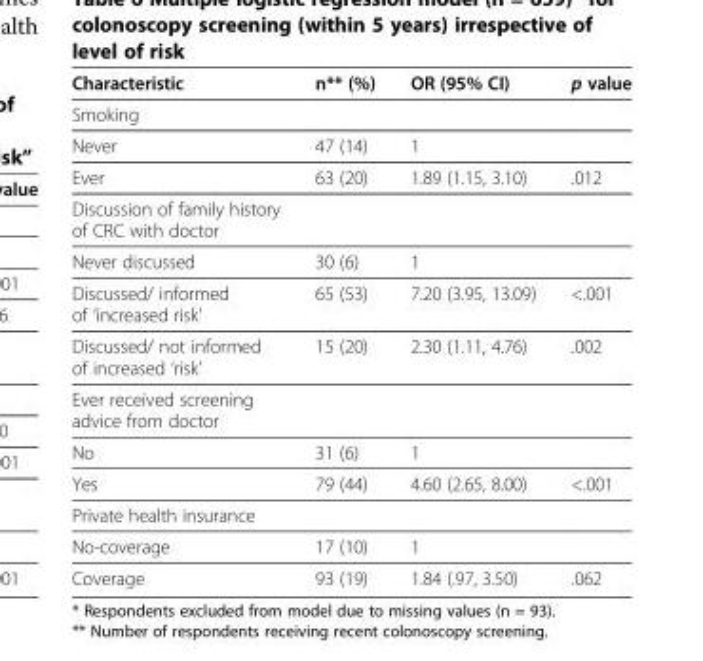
<table><thead><tr><td>Characteristic</td><td>n** (%)</td><td>OR (95% CI)</td><td>p value</td></tr></thead><tbody><tr><td colspan="4">Smoking</td></tr><tr><td>Never</td><td>47 (14)</td><td>1</td><td></td></tr><tr><td>Ever</td><td>63 (20)</td><td>1.89 (1.15, 3.10)</td><td>.012</td></tr><tr><td colspan="4">Discussion of family history of CRC with doctor</td></tr><tr><td>Never discussed</td><td>30 (6)</td><td>1</td><td></td></tr><tr><td>Discussed/ informed of ‘increased risk’</td><td>65 (53)</td><td>7.20 (3.95, 13.09)</td><td>&lt;.001</td></tr><tr><td>Discussed/ not informed of increased ‘risk’</td><td>15 (20)</td><td>2.30 (1.11, 4.76)</td><td>.002</td></tr><tr><td colspan="4">Ever received screening advice from doctor</td></tr><tr><td>No</td><td>31 (6)</td><td>1</td><td></td></tr><tr><td>Yes</td><td>79 (44)</td><td>4.60 (2.65, 8.00)</td><td>&lt;.001</td></tr><tr><td colspan="4">Private health insurance</td></tr><tr><td>No-coverage</td><td>17 (10)</td><td>1</td><td></td></tr><tr><td>Coverage</td><td>93 (19)</td><td>1.84 (.97, 3.50)</td><td>.062</td></tr></tbody></table>